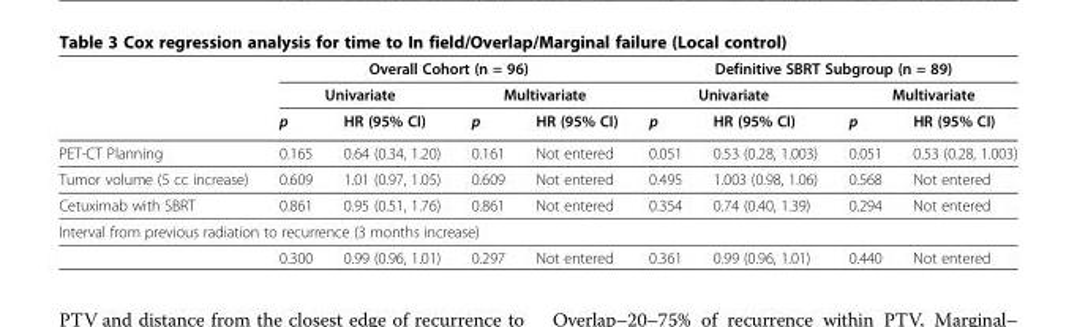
<table><thead><tr><td rowspan="3"></td><td colspan="4">Overall Cohort (n = 96)</td><td colspan="4">Definitive SBRT Subgroup (n = 89)</td></tr><tr><td colspan="2">Univariate</td><td colspan="2">Multivariate</td><td colspan="2">Univariate</td><td colspan="2">Multivariate</td></tr><tr><td>p</td><td>HR (95% CI)</td><td>p</td><td>HR (95% CI)</td><td>p</td><td>HR (95% CI)</td><td>p</td><td>HR (95% CI)</td></tr></thead><tbody><tr><td>PET-CT Planning</td><td>0.165</td><td>0.64 (0.34, 1.20)</td><td>0.161</td><td>Not entered</td><td>0.051</td><td>0.53 (0.28, 1.003)</td><td>0.051</td><td>0.53 (0.28, 1.003)</td></tr><tr><td>Tumor volume (5 cc increase)</td><td>0.609</td><td>1.01 (0.97, 1.05)</td><td>0.609</td><td>Not entered</td><td>0.495</td><td>1.003 (0.98, 1.06)</td><td>0.568</td><td>Not entered</td></tr><tr><td>Cetuximab with SBRT</td><td>0.861</td><td>0.95 (0.51, 1.76)</td><td>0.861</td><td>Not entered</td><td>0.354</td><td>0.74 (0.40, 1.39)</td><td>0.294</td><td>Not entered</td></tr><tr><td colspan="9">Interval from previous radiation to recurrence (3 months increase)</td></tr><tr><td></td><td>0.300</td><td>0.99 (0.96, 1.01)</td><td>0.297</td><td>Not entered</td><td>0.361</td><td>0.99 (0.96, 1.01)</td><td>0.440</td><td>Not entered</td></tr></tbody></table>